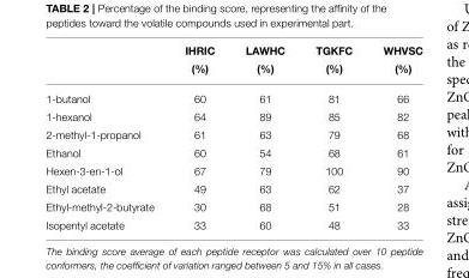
<table><thead><tr><td></td><td>IHRIC (%)</td><td>LAWHC (%)</td><td>TGKFC (%)</td><td>WHVSC (%)</td></tr></thead><tbody><tr><td>1-butanol</td><td>60</td><td>61</td><td>81</td><td>66</td></tr><tr><td>1-hexanol</td><td>64</td><td>89</td><td>85</td><td>82</td></tr><tr><td>2-methyl-1-propanol</td><td>61</td><td>63</td><td>79</td><td>68</td></tr><tr><td>Ethanol</td><td>60</td><td>54</td><td>68</td><td>61</td></tr><tr><td>Hexen-3-en-1-ol</td><td>67</td><td>79</td><td>100</td><td>90</td></tr><tr><td>Ethyl acetate</td><td>49</td><td>63</td><td>62</td><td>37</td></tr><tr><td>Ethyl-methyl-2-butyrate</td><td>30</td><td>68</td><td>51</td><td>28</td></tr><tr><td>Isopentyl acetate</td><td>33</td><td>60</td><td>48</td><td>33</td></tr></tbody></table>